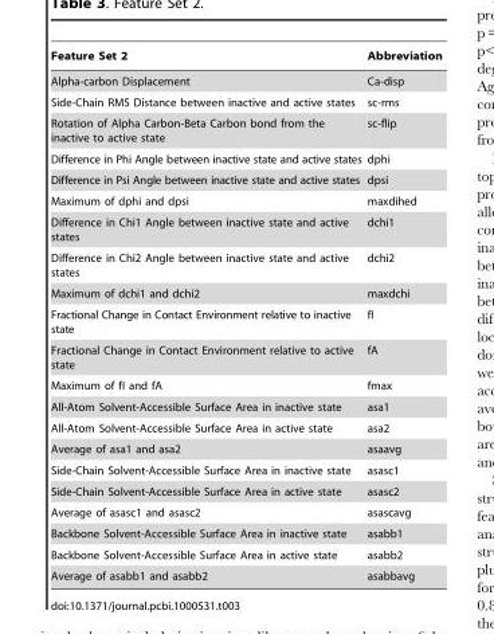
<table><thead><tr><td>Feature Set 2</td><td>Abbreviation</td></tr></thead><tbody><tr><td>Alpha-carbon Displacement</td><td>Ca-disp</td></tr><tr><td>Side-Chain RMS Distance between inactive and active states</td><td>sc-rms</td></tr><tr><td>Rotation of Alpha Carbon-Beta Carbon bond from the inactive to active state</td><td>sc-flip</td></tr><tr><td>Difference in Phi Angle between inactive state and active states</td><td>dphi</td></tr><tr><td>Difference in Psi Angle between inactive state and active states</td><td>dpsi</td></tr><tr><td>Maximum of dphi and dpsi</td><td>maxdihed</td></tr><tr><td>Difference in Chi1 Angle between inactive state and active states</td><td>dchi1</td></tr><tr><td>Difference in Chi2 Angle between inactive state and active states</td><td>dchi2</td></tr><tr><td>Maximum of dchi1 and dchi2</td><td>maxdchi</td></tr><tr><td>Fractional Change in Contact Environment relative to inactive state</td><td>fI</td></tr><tr><td>Fractional Change in Contact Environment relative to active state</td><td>fA</td></tr><tr><td>Maximum of fI and fA</td><td>fmax</td></tr><tr><td>All-Atom Solvent-Accessible Surface Area in inactive state</td><td>asa1</td></tr><tr><td>All-Atom Solvent-Accessible Surface Area in active state</td><td>asa2</td></tr><tr><td>Average of asa1 and asa2</td><td>asaavg</td></tr><tr><td>Side-Chain Solvent-Accessible Surface Area in inactive state</td><td>asasc1</td></tr><tr><td>Side-Chain Solvent-Accessible Surface Area in active state</td><td>asasc2</td></tr><tr><td>Average of asasc1 and asasc2</td><td>asascavg</td></tr><tr><td>Backbone Solvent-Accessible Surface Area in inactive state</td><td>asabb1</td></tr><tr><td>Backbone Solvent-Accessible Surface Area in active state</td><td>asabb2</td></tr><tr><td>Average of asabb1 and asabb2</td><td>asabbavg</td></tr></tbody></table>